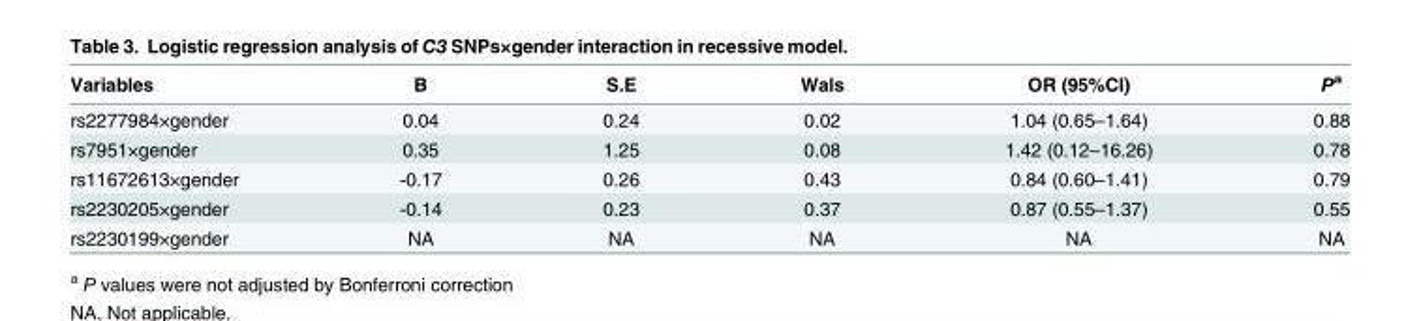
<table><thead><tr><td>Variables</td><td>B</td><td>S.E</td><td>Wals</td><td>OR (95%CI)</td><td>P<sup>a</sup></td></tr></thead><tbody><tr><td>rs2277984×gender</td><td>0.04</td><td>0.24</td><td>0.02</td><td>1.04 (0.65–1.64)</td><td>0.88</td></tr><tr><td>rs7951×gender</td><td>0.35</td><td>1.25</td><td>0.08</td><td>1.42 (0.12–16.26)</td><td>0.78</td></tr><tr><td>rs11672613×gender</td><td>-0.17</td><td>0.26</td><td>0.43</td><td>0.84 (0.60–1.41)</td><td>0.79</td></tr><tr><td>rs2230205×gender</td><td>-0.14</td><td>0.23</td><td>0.37</td><td>0.87 (0.55–1.37)</td><td>0.55</td></tr><tr><td>rs2230199×gender</td><td>NA</td><td>NA</td><td>NA</td><td>NA</td><td>NA</td></tr></tbody></table>